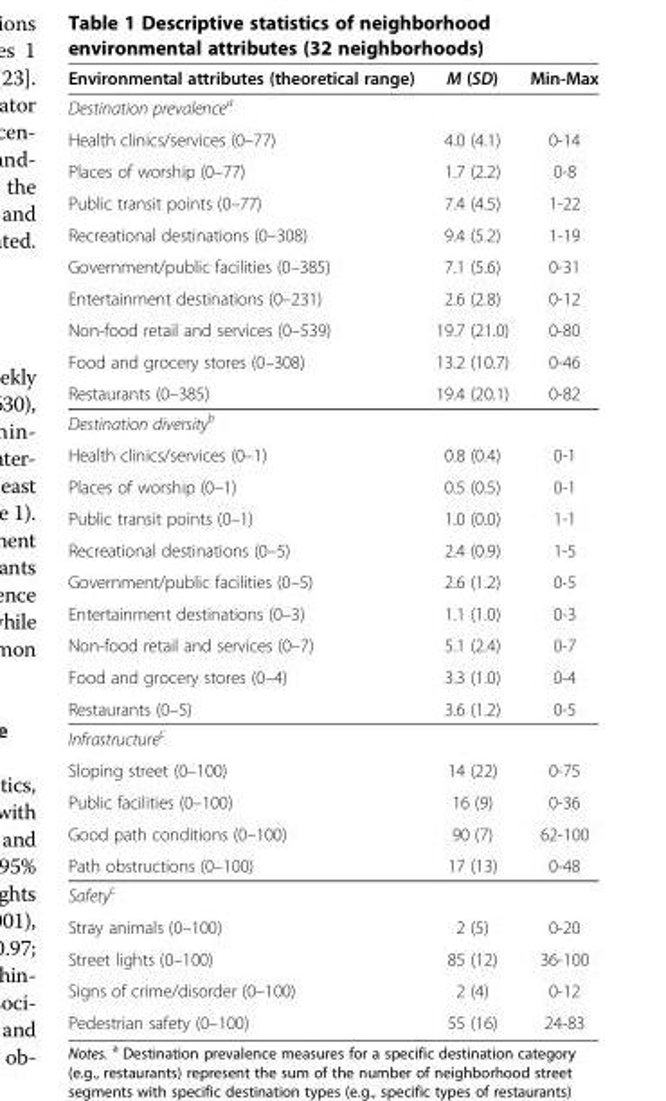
<table><thead><tr><td>Environmental attributes (theoretical range)</td><td>M (SD)</td><td>Min-Max</td></tr></thead><tbody><tr><td colspan="3">Destination prevalence<sup>a</sup></td></tr><tr><td>Health clinics/services (0–77)</td><td>4.0 (4.1)</td><td>0-14</td></tr><tr><td>Places of worship (0–77)</td><td>1.7 (2.2)</td><td>0-8</td></tr><tr><td>Public transit points (0–77)</td><td>7.4 (4.5)</td><td>1-22</td></tr><tr><td>Recreational destinations (0–308)</td><td>9.4 (5.2)</td><td>1-19</td></tr><tr><td>Government/public facilities (0–385)</td><td>7.1 (5.6)</td><td>0-31</td></tr><tr><td>Entertainment destinations (0–231)</td><td>2.6 (2.8)</td><td>0-12</td></tr><tr><td>Non-food retail and services (0–539)</td><td>19.7 (21.0)</td><td>0-80</td></tr><tr><td>Food and grocery stores (0–308)</td><td>13.2 (10.7)</td><td>0-46</td></tr><tr><td>Restaurants (0–385)</td><td>19.4 (20.1)</td><td>0-82</td></tr><tr><td colspan="3">Destination diversity<sup>b</sup></td></tr><tr><td>Health clinics/services (0–1)</td><td>0.8 (0.4)</td><td>0-1</td></tr><tr><td>Places of worship (0–1)</td><td>0.5 (0.5)</td><td>0-1</td></tr><tr><td>Public transit points (0–1)</td><td>1.0 (0.0)</td><td>1-1</td></tr><tr><td>Recreational destinations (0–5)</td><td>2.4 (0.9)</td><td>1-5</td></tr><tr><td>Government/public facilities (0–5)</td><td>2.6 (1.2)</td><td>0-5</td></tr><tr><td>Entertainment destinations (0–3)</td><td>1.1 (1.0)</td><td>0-3</td></tr><tr><td>Non-food retail and services (0–7)</td><td>5.1 (2.4)</td><td>0-7</td></tr><tr><td>Food and grocery stores (0–4)</td><td>3.3 (1.0)</td><td>0-4</td></tr><tr><td>Restaurants (0–5)</td><td>3.6 (1.2)</td><td>0-5</td></tr><tr><td colspan="3">Infrastructure<sup>c</sup></td></tr><tr><td>Sloping street (0–100)</td><td>14 (22)</td><td>0-75</td></tr><tr><td>Public facilities (0–100)</td><td>16 (9)</td><td>0-36</td></tr><tr><td>Good path conditions (0–100)</td><td>90 (7)</td><td>62-100</td></tr><tr><td>Path obstructions (0–100)</td><td>17 (13)</td><td>0-48</td></tr><tr><td colspan="3">Safety<sup>c</sup></td></tr><tr><td>Stray animals (0–100)</td><td>2 (5)</td><td>0-20</td></tr><tr><td>Street lights (0–100)</td><td>85 (12)</td><td>36-100</td></tr><tr><td>Signs of crime/disorder (0–100)</td><td>2 (4)</td><td>0-12</td></tr><tr><td>Pedestrian safety (0–100)</td><td>55 (16)</td><td>24-83</td></tr></tbody></table>